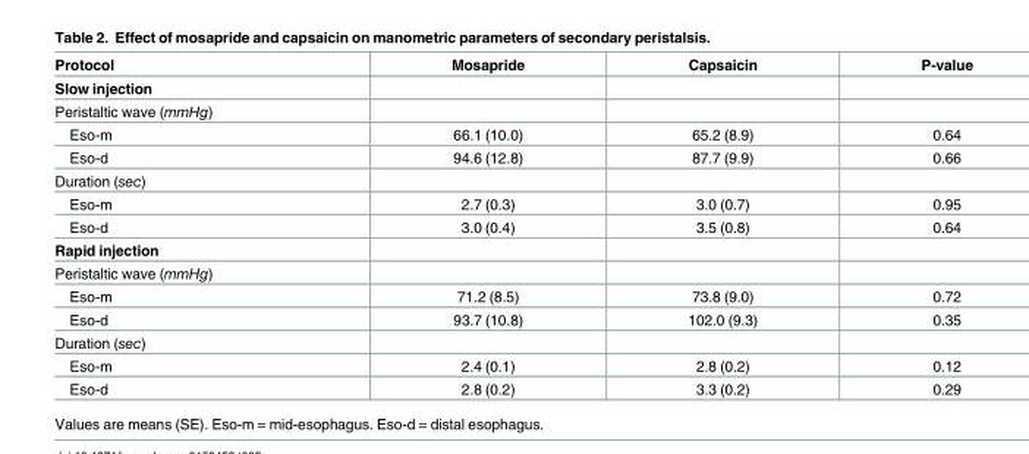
<table><thead><tr><td>Protocol</td><td>Mosapride</td><td>Capsaicin</td><td>P-value</td></tr></thead><tbody><tr><td colspan="4">Slow injection</td></tr><tr><td colspan="4">Peristaltic wave (mmHg)</td></tr><tr><td>Eso-m</td><td>66.1 (10.0)</td><td>65.2 (8.9)</td><td>0.64</td></tr><tr><td>Eso-d</td><td>94.6 (12.8)</td><td>87.7 (9.9)</td><td>0.66</td></tr><tr><td colspan="4">Duration (sec)</td></tr><tr><td>Eso-m</td><td>2.7 (0.3)</td><td>3.0 (0.7)</td><td>0.95</td></tr><tr><td>Eso-d</td><td>3.0 (0.4)</td><td>3.5 (0.8)</td><td>0.64</td></tr><tr><td colspan="4">Rapid injection</td></tr><tr><td colspan="4">Peristaltic wave (mmHg)</td></tr><tr><td>Eso-m</td><td>71.2 (8.5)</td><td>73.8 (9.0)</td><td>0.72</td></tr><tr><td>Eso-d</td><td>93.7 (10.8)</td><td>102.0 (9.3)</td><td>0.35</td></tr><tr><td colspan="4">Duration (sec)</td></tr><tr><td>Eso-m</td><td>2.4 (0.1)</td><td>2.8 (0.2)</td><td>0.12</td></tr><tr><td>Eso-d</td><td>2.8 (0.2)</td><td>3.3 (0.2)</td><td>0.29</td></tr></tbody></table>